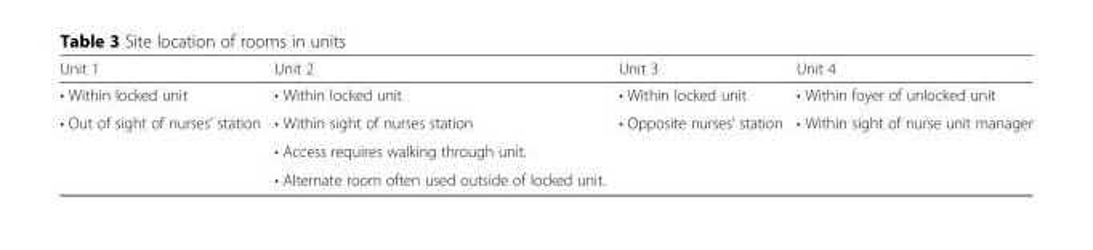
<table><thead><tr><td>Unit 1</td><td>Unit 2</td><td>Unit 3</td><td>Unit 4</td></tr></thead><tbody><tr><td>• Within locked unit</td><td>• Within locked unit</td><td>• Within locked unit</td><td>• Within foyer of unlocked unit</td></tr><tr><td rowspan="3">• Out of sight of nurses’ station</td><td>• Within sight of nurses station</td><td rowspan="3">• Opposite nurses’ station</td><td rowspan="3">• Within sight of nurse unit manager</td></tr><tr><td>• Access requires walking through unit.</td></tr><tr><td>• Alternate room often used outside of locked unit.</td></tr></tbody></table>